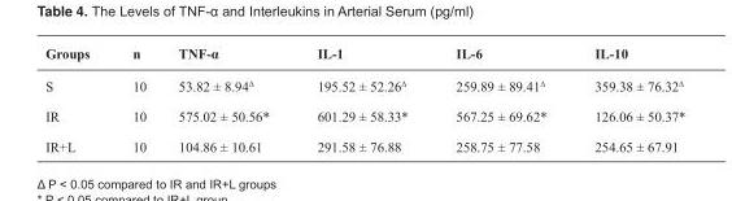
<table><thead><tr><td>Groups</td><td>n</td><td>TNF-α</td><td>IL-1</td><td>IL-6</td><td>IL-10</td></tr></thead><tbody><tr><td>S</td><td>10</td><td>53.82 ± 8.94<sup>Δ</sup></td><td>195.52 ± 52.26<sup>Δ</sup></td><td>259.89 ± 89.41<sup>Δ</sup></td><td>359.38 ± 76.32<sup>Δ</sup></td></tr><tr><td>IR</td><td>10</td><td>575.02 ± 50.56*</td><td>601.29 ± 58.33*</td><td>567.25 ± 69.62*</td><td>126.06 ± 50.37*</td></tr><tr><td>IR+L</td><td>10</td><td>104.86 ± 10.61</td><td>291.58 ± 76.88</td><td>258.75 ± 77.58</td><td>254.65 ± 67.91</td></tr></tbody></table>